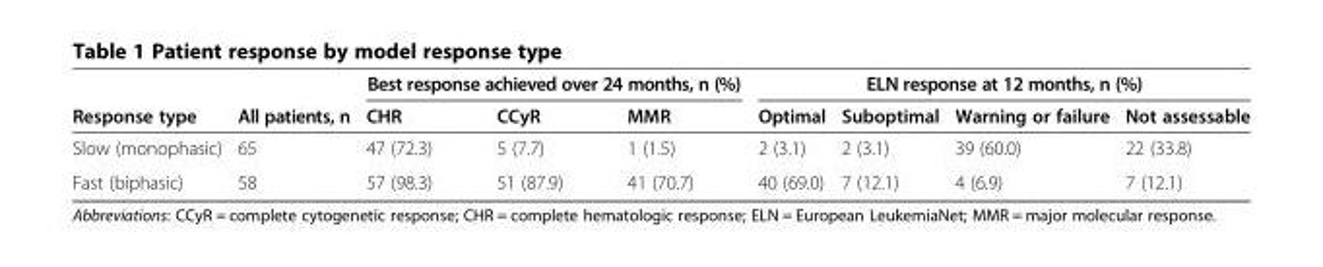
<table><thead><tr><td rowspan="2">Response type</td><td rowspan="2">All patients, n</td><td colspan="3">Best response achieved over 24 months, n (%)</td><td colspan="4">ELN response at 12 months, n (%)</td></tr><tr><td>CHR</td><td>CCyR</td><td>MMR</td><td>Optimal</td><td>Suboptimal</td><td>Warning or failure</td><td>Not assessable</td></tr></thead><tbody><tr><td>Slow (monophasic)</td><td>65</td><td>47 (72.3)</td><td>5 (7.7)</td><td>1 (1.5)</td><td>2 (3.1)</td><td>2 (3.1)</td><td>39 (60.0)</td><td>22 (33.8)</td></tr><tr><td>Fast (biphasic)</td><td>58</td><td>57 (98.3)</td><td>51 (87.9)</td><td>41 (70.7)</td><td>40 (69.0)</td><td>7 (12.1)</td><td>4 (6.9)</td><td>7 (12.1)</td></tr></tbody></table>